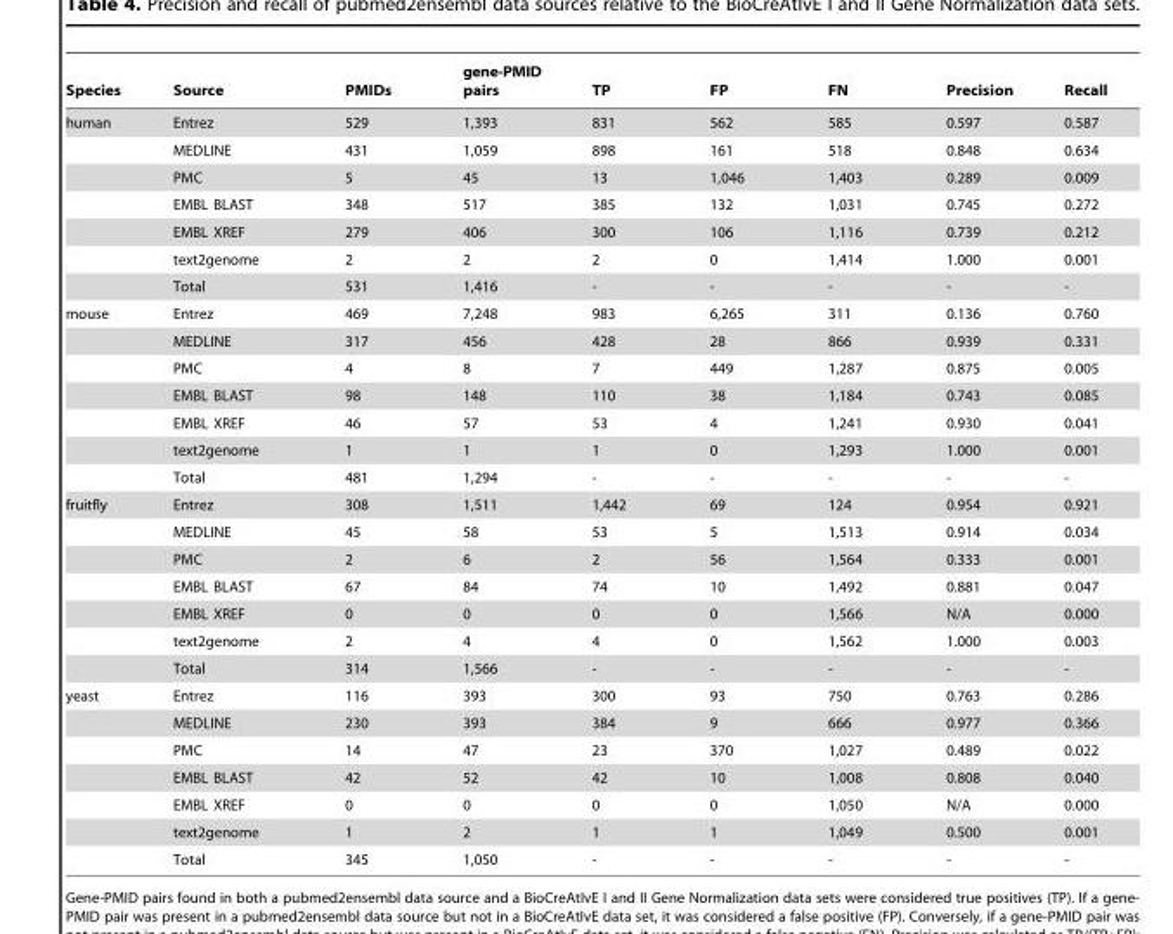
<table><thead><tr><td>Species</td><td>Source</td><td>PMIDs</td><td>gene-PMID pairs</td><td>TP</td><td>FP</td><td>FN</td><td>Precision</td><td>Recall</td></tr></thead><tbody><tr><td rowspan="7">human</td><td>Entrez</td><td>529</td><td>1,393</td><td>831</td><td>562</td><td>585</td><td>0.597</td><td>0.587</td></tr><tr><td>MEDLINE</td><td>431</td><td>1,059</td><td>898</td><td>161</td><td>518</td><td>0.848</td><td>0.634</td></tr><tr><td>PMC</td><td>5</td><td>45</td><td>13</td><td>1,046</td><td>1,403</td><td>0.289</td><td>0.009</td></tr><tr><td>EMBL BLAST</td><td>348</td><td>517</td><td>385</td><td>132</td><td>1,031</td><td>0.745</td><td>0.272</td></tr><tr><td>EMBL XREF</td><td>279</td><td>406</td><td>300</td><td>106</td><td>1,116</td><td>0.739</td><td>0.212</td></tr><tr><td>text2genome</td><td>2</td><td>2</td><td>2</td><td>0</td><td>1,414</td><td>1.000</td><td>0.001</td></tr><tr><td>Total</td><td>531</td><td>1,416</td><td>-</td><td>-</td><td>-</td><td>-</td><td>-</td></tr><tr><td rowspan="7">mouse</td><td>Entrez</td><td>469</td><td>7,248</td><td>983</td><td>6,265</td><td>311</td><td>0.136</td><td>0.760</td></tr><tr><td>MEDLINE</td><td>317</td><td>456</td><td>428</td><td>28</td><td>866</td><td>0.939</td><td>0.331</td></tr><tr><td>PMC</td><td>4</td><td>8</td><td>7</td><td>449</td><td>1,287</td><td>0.875</td><td>0.005</td></tr><tr><td>EMBL BLAST</td><td>98</td><td>148</td><td>110</td><td>38</td><td>1,184</td><td>0.743</td><td>0.085</td></tr><tr><td>EMBL XREF</td><td>46</td><td>57</td><td>53</td><td>4</td><td>1,241</td><td>0.930</td><td>0.041</td></tr><tr><td>text2genome</td><td>1</td><td>1</td><td>1</td><td>0</td><td>1,293</td><td>1.000</td><td>0.001</td></tr><tr><td>Total</td><td>481</td><td>1,294</td><td>-</td><td>-</td><td>-</td><td>-</td><td>-</td></tr><tr><td rowspan="7">fruitfly</td><td>Entrez</td><td>308</td><td>1,511</td><td>1,442</td><td>69</td><td>124</td><td>0.954</td><td>0.921</td></tr><tr><td>MEDLINE</td><td>45</td><td>58</td><td>53</td><td>5</td><td>1,513</td><td>0.914</td><td>0.034</td></tr><tr><td>PMC</td><td>2</td><td>6</td><td>2</td><td>56</td><td>1,564</td><td>0.333</td><td>0.001</td></tr><tr><td>EMBL BLAST</td><td>67</td><td>84</td><td>74</td><td>10</td><td>1,492</td><td>0.881</td><td>0.047</td></tr><tr><td>EMBL XREF</td><td>0</td><td>0</td><td>0</td><td>0</td><td>1,566</td><td>N/A</td><td>0.000</td></tr><tr><td>text2genome</td><td>2</td><td>4</td><td>4</td><td>0</td><td>1,562</td><td>1.000</td><td>0.003</td></tr><tr><td>Total</td><td>314</td><td>1,566</td><td>-</td><td>-</td><td>-</td><td>-</td><td>-</td></tr><tr><td rowspan="7">yeast</td><td>Entrez</td><td>116</td><td>393</td><td>300</td><td>93</td><td>750</td><td>0.763</td><td>0.286</td></tr><tr><td>MEDLINE</td><td>230</td><td>393</td><td>384</td><td>9</td><td>666</td><td>0.977</td><td>0.366</td></tr><tr><td>PMC</td><td>14</td><td>47</td><td>23</td><td>370</td><td>1,027</td><td>0.489</td><td>0.022</td></tr><tr><td>EMBL BLAST</td><td>42</td><td>52</td><td>42</td><td>10</td><td>1,008</td><td>0.808</td><td>0.040</td></tr><tr><td>EMBL XREF</td><td>0</td><td>0</td><td>0</td><td>0</td><td>1,050</td><td>N/A</td><td>0.000</td></tr><tr><td>text2genome</td><td>1</td><td>2</td><td>1</td><td>1</td><td>1,049</td><td>0.500</td><td>0.001</td></tr><tr><td>Total</td><td>345</td><td>1,050</td><td>-</td><td>-</td><td>-</td><td>-</td><td>-</td></tr></tbody></table>